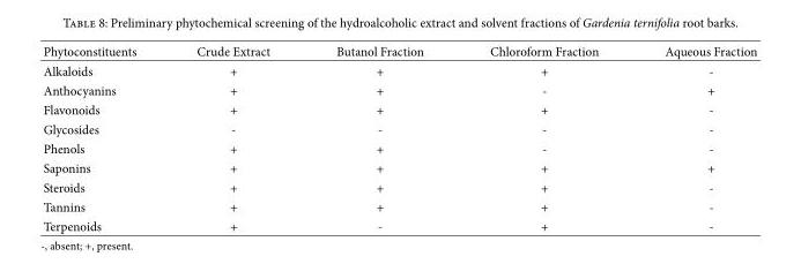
<table><thead><tr><td>Phytoconstituents</td><td>Crude Extract</td><td>Butanol Fraction</td><td>Chloroform Fraction</td><td>Aqueous Fraction</td></tr></thead><tbody><tr><td>Alkaloids</td><td>+</td><td>+</td><td>+</td><td>-</td></tr><tr><td>Anthocyanins</td><td>+</td><td>+</td><td>-</td><td>+</td></tr><tr><td>Flavonoids</td><td>+</td><td>+</td><td>+</td><td>-</td></tr><tr><td>Glycosides</td><td>-</td><td>-</td><td>-</td><td>-</td></tr><tr><td>Phenols</td><td>+</td><td>+</td><td>-</td><td>-</td></tr><tr><td>Saponins</td><td>+</td><td>+</td><td>+</td><td>+</td></tr><tr><td>Steroids</td><td>+</td><td>+</td><td>+</td><td>-</td></tr><tr><td>Tannins</td><td>+</td><td>+</td><td>+</td><td>-</td></tr><tr><td>Terpenoids</td><td>+</td><td>-</td><td>+</td><td>-</td></tr></tbody></table>